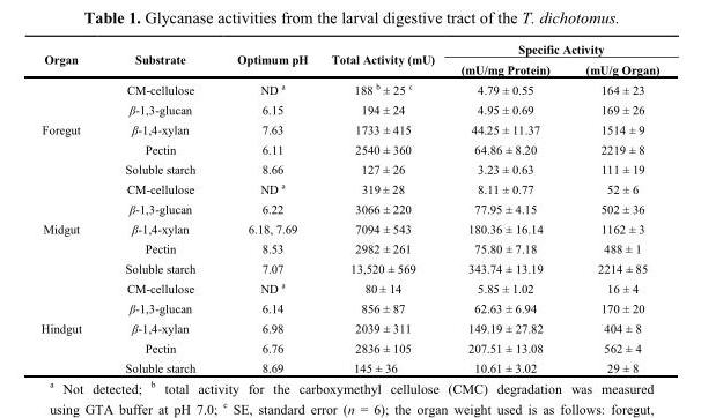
<table><thead><tr><td rowspan="2">Organ</td><td rowspan="2">Substrate</td><td rowspan="2">Optimum pH</td><td rowspan="2">Total Activity (mU)</td><td colspan="2">Specific Activity</td></tr><tr><td>(mU/mg Protein)</td><td>(mU/g Organ)</td></tr></thead><tbody><tr><td rowspan="5">Foregut</td><td>CM-cellulose</td><td>ND <sup>a</sup></td><td>188 <sup>b</sup> ± 25 <sup>c</sup></td><td>4.79 ± 0.55</td><td>164 ± 23</td></tr><tr><td>β-1,3-glucan</td><td>6.15</td><td>194 ± 24</td><td>4.95 ± 0.69</td><td>169 ± 26</td></tr><tr><td>β-1,4-xylan</td><td>7.63</td><td>1733 ± 415</td><td>44.25 ± 11.37</td><td>1514 ± 9</td></tr><tr><td>Pectin</td><td>6.11</td><td>2540 ± 360</td><td>64.86 ± 8.20</td><td>2219 ± 8</td></tr><tr><td>Soluble starch</td><td>8.66</td><td>127 ± 26</td><td>3.23 ± 0.63</td><td>111 ± 19</td></tr><tr><td rowspan="5">Midgut</td><td>CM-cellulose</td><td>ND <sup>a</sup></td><td>319 ± 28</td><td>8.11 ± 0.77</td><td>52 ± 6</td></tr><tr><td>β-1,3-glucan</td><td>6.22</td><td>3066 ± 220</td><td>77.95 ± 4.15</td><td>502 ± 36</td></tr><tr><td>β-1,4-xylan</td><td>6.18, 7.69</td><td>7094 ± 543</td><td>180.36 ± 16.14</td><td>1162 ± 3</td></tr><tr><td>Pectin</td><td>8.53</td><td>2982 ± 261</td><td>75.80 ± 7.18</td><td>488 ± 1</td></tr><tr><td>Soluble starch</td><td>7.07</td><td>13,520 ± 569</td><td>343.74 ± 13.19</td><td>2214 ± 85</td></tr><tr><td rowspan="5">Hindgut</td><td>CM-cellulose</td><td>ND <sup>a</sup></td><td>80 ± 14</td><td>5.85 ± 1.02</td><td>16 ± 4</td></tr><tr><td>β-1,3-glucan</td><td>6.14</td><td>856 ± 87</td><td>62.63 ± 6.94</td><td>170 ± 20</td></tr><tr><td>β-1,4-xylan</td><td>6.98</td><td>2039 ± 311</td><td>149.19 ± 27.82</td><td>404 ± 8</td></tr><tr><td>Pectin</td><td>6.76</td><td>2836 ± 105</td><td>207.51 ± 13.08</td><td>562 ± 4</td></tr><tr><td>Soluble starch</td><td>8.69</td><td>145 ± 36</td><td>10.61 ± 3.02</td><td>29 ± 8</td></tr></tbody></table>